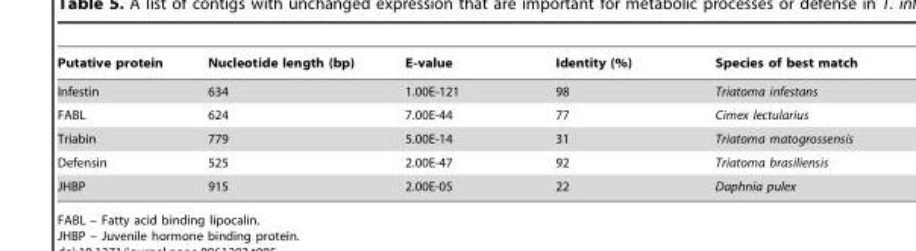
<table><thead><tr><td>Putative protein</td><td>Nucleotide length (bp)</td><td>E-value</td><td>Identity (%)</td><td>Species of best match</td></tr></thead><tbody><tr><td>Infestin</td><td>634</td><td>1.00E-121</td><td>98</td><td>Triatoma infestans</td></tr><tr><td>FABL</td><td>624</td><td>7.00E-44</td><td>77</td><td>Cimex lectularius</td></tr><tr><td>Triabin</td><td>779</td><td>5.00E-14</td><td>31</td><td>Triatoma matogrossensis</td></tr><tr><td>Defensin</td><td>525</td><td>2.00E-47</td><td>92</td><td>Triatoma brasiliensis</td></tr><tr><td>JHBP</td><td>915</td><td>2.00E-05</td><td>22</td><td>Daphnia pulex</td></tr></tbody></table>